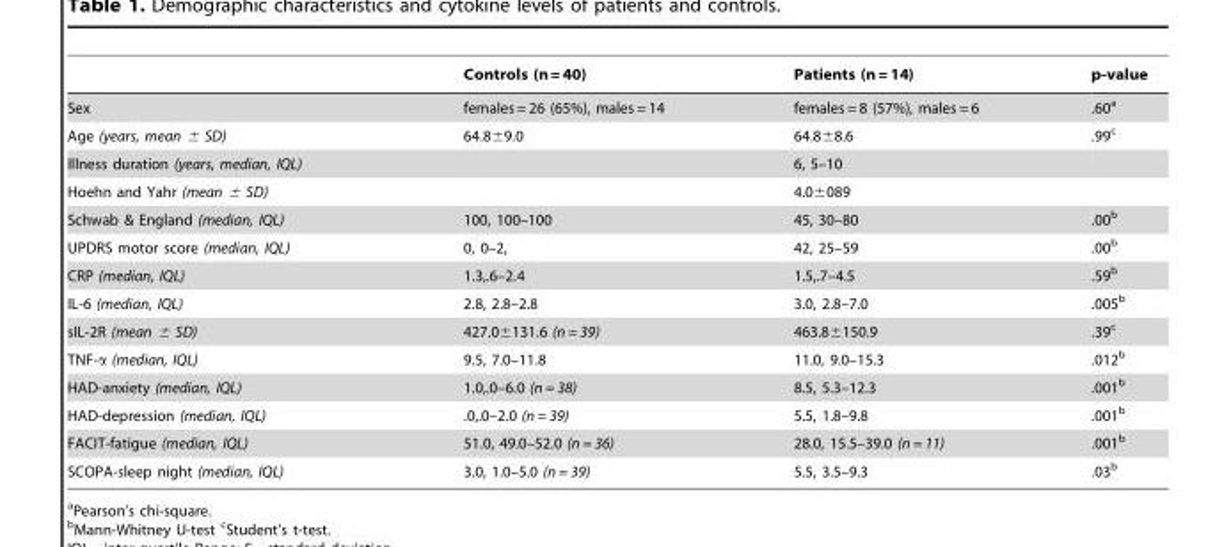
<table><thead><tr><td></td><td>Controls (n = 40)</td><td>Patients (n = 14)</td><td>p-value</td></tr></thead><tbody><tr><td>Sex</td><td>females = 26 (65%), males = 14</td><td>females = 8 (57%), males = 6</td><td>.60<sup>a</sup></td></tr><tr><td>Age (years, mean ± SD)</td><td>64.8±9.0</td><td>64.8±8.6</td><td>.99<sup>c</sup></td></tr><tr><td>Illness duration (years, median, IQL)</td><td></td><td>6, 5–10</td><td></td></tr><tr><td>Hoehn and Yahr (mean ± SD)</td><td></td><td>4.0±089</td><td></td></tr><tr><td>Schwab &amp; England (median, IQL)</td><td>100, 100–100</td><td>45, 30–80</td><td>.00<sup>b</sup></td></tr><tr><td>UPDRS motor score (median, IQL)</td><td>0, 0–2,</td><td>42, 25–59</td><td>.00<sup>b</sup></td></tr><tr><td>CRP (median, IQL)</td><td>1.3,.6–2.4</td><td>1.5,.7–4.5</td><td>.59<sup>b</sup></td></tr><tr><td>IL-6 (median, IQL)</td><td>2.8, 2.8–2.8</td><td>3.0, 2.8–7.0</td><td>.005<sup>b</sup></td></tr><tr><td>sIL-2R (mean ± SD)</td><td>427.0±131.6 (n = 39)</td><td>463.8±150.9</td><td>.39<sup>c</sup></td></tr><tr><td>TNF-α (median, IQL)</td><td>9.5, 7.0–11.8</td><td>11.0, 9.0–15.3</td><td>.012<sup>b</sup></td></tr><tr><td>HAD-anxiety (median, IQL)</td><td>1.0,.0–6.0 (n = 38)</td><td>8.5, 5.3–12.3</td><td>.001<sup>b</sup></td></tr><tr><td>HAD-depression (median, IQL)</td><td>.0,.0–2.0 (n = 39)</td><td>5.5, 1.8–9.8</td><td>.001<sup>b</sup></td></tr><tr><td>FACIT-fatigue (median, IQL)</td><td>51.0, 49.0–52.0 (n = 36)</td><td>28.0, 15.5–39.0 (n = 11)</td><td>.001<sup>b</sup></td></tr><tr><td>SCOPA-sleep night (median, IQL)</td><td>3.0, 1.0–5.0 (n = 39)</td><td>5.5, 3.5–9.3</td><td>.03<sup>b</sup></td></tr></tbody></table>